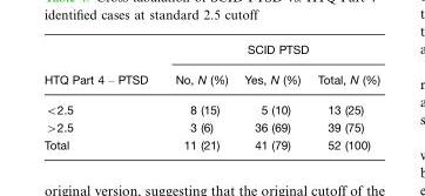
<table><thead><tr><td rowspan="2">HTQ Part 4 – PTSD</td><td colspan="3">SCID PTSD</td></tr><tr><td>No, N (%)</td><td>Yes, N (%)</td><td>Total, N (%)</td></tr></thead><tbody><tr><td>&lt;2.5</td><td>8 (15)</td><td>5 (10)</td><td>13 (25)</td></tr><tr><td>&gt;2.5</td><td>3 (6)</td><td>36 (69)</td><td>39 (75)</td></tr><tr><td>Total</td><td>11 (21)</td><td>41 (79)</td><td>52 (100)</td></tr></tbody></table>